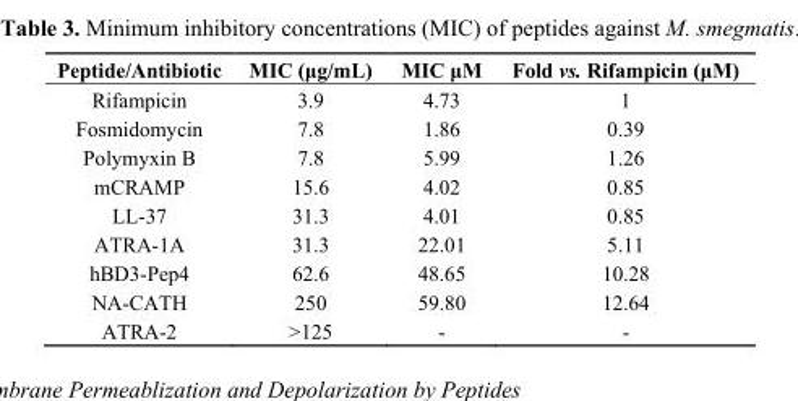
<table><thead><tr><td>Peptide/Antibiotic</td><td>MIC (μg/mL)</td><td>MIC μM</td><td>Fold vs. Rifampicin (μM)</td></tr></thead><tbody><tr><td>Rifampicin</td><td>3.9</td><td>4.73</td><td>1</td></tr><tr><td>Fosmidomycin</td><td>7.8</td><td>1.86</td><td>0.39</td></tr><tr><td>Polymyxin B</td><td>7.8</td><td>5.99</td><td>1.26</td></tr><tr><td>mCRAMP</td><td>15.6</td><td>4.02</td><td>0.85</td></tr><tr><td>LL-37</td><td>31.3</td><td>4.01</td><td>0.85</td></tr><tr><td>ATRA-1A</td><td>31.3</td><td>22.01</td><td>5.11</td></tr><tr><td>hBD3-Pep4</td><td>62.6</td><td>48.65</td><td>10.28</td></tr><tr><td>NA-CATH</td><td>250</td><td>59.80</td><td>12.64</td></tr><tr><td>ATRA-2</td><td>&gt;125</td><td>-</td><td>-</td></tr></tbody></table>